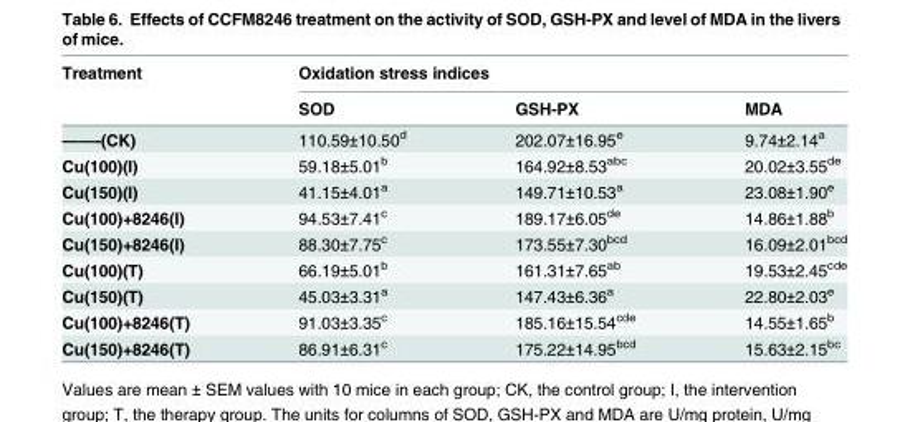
<table><thead><tr><td rowspan="2">Treatment</td><td colspan="3">Oxidation stress indices</td></tr><tr><td>SOD</td><td>GSH-PX</td><td>MDA</td></tr></thead><tbody><tr><td>——-(CK)</td><td>110.59±10.50<sup>d</sup></td><td>202.07±16.95<sup>e</sup></td><td>9.74±2.14<sup>a</sup></td></tr><tr><td>Cu(100)(I)</td><td>59.18±5.01<sup>b</sup></td><td>164.92±8.53<sup>abc</sup></td><td>20.02±3.55<sup>de</sup></td></tr><tr><td>Cu(150)(I)</td><td>41.15±4.01<sup>a</sup></td><td>149.71±10.53<sup>a</sup></td><td>23.08±1.90<sup>e</sup></td></tr><tr><td>Cu(100)+8246(I)</td><td>94.53±7.41<sup>c</sup></td><td>189.17±6.05<sup>de</sup></td><td>14.86±1.88<sup>b</sup></td></tr><tr><td>Cu(150)+8246(I)</td><td>88.30±7.75<sup>c</sup></td><td>173.55±7.30<sup>bcd</sup></td><td>16.09±2.01<sup>bcd</sup></td></tr><tr><td>Cu(100)(T)</td><td>66.19±5.01<sup>b</sup></td><td>161.31±7.65<sup>ab</sup></td><td>19.53±2.45<sup>cde</sup></td></tr><tr><td>Cu(150)(T)</td><td>45.03±3.31<sup>a</sup></td><td>147.43±6.36<sup>a</sup></td><td>22.80±2.03<sup>e</sup></td></tr><tr><td>Cu(100)+8246(T)</td><td>91.03±3.35<sup>c</sup></td><td>185.16±15.54<sup>cde</sup></td><td>14.55±1.65<sup>b</sup></td></tr><tr><td>Cu(150)+8246(T)</td><td>86.91±6.31<sup>c</sup></td><td>175.22±14.95<sup>bcd</sup></td><td>15.63±2.15<sup>bc</sup></td></tr></tbody></table>